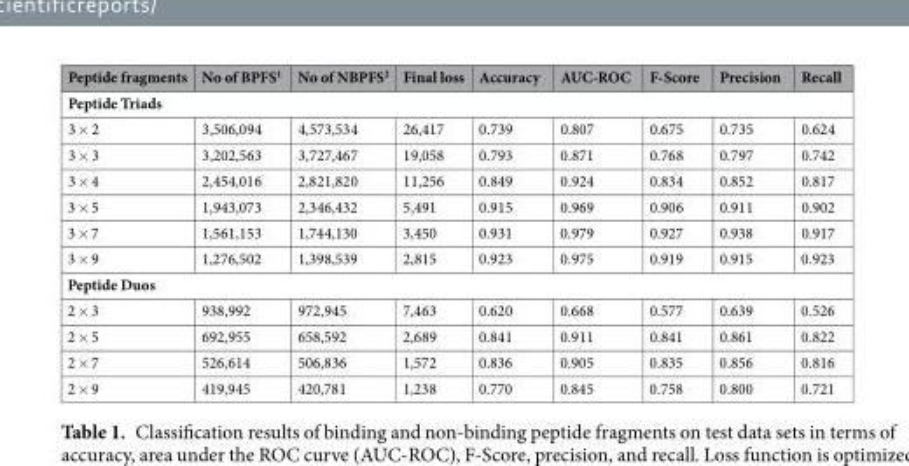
<table><thead><tr><td>Peptide fragments</td><td>No of BPFS<sup>1</sup></td><td>No of NBPFS<sup>2</sup></td><td>Final loss</td><td>Accuracy</td><td>AUC-ROC</td><td>F-Score</td><td>Precision</td><td>Recall</td></tr></thead><tbody><tr><td colspan="9">Peptide Triads</td></tr><tr><td>3 × 2</td><td>3,506,094</td><td>4,573,534</td><td>26,417</td><td>0.739</td><td>0.807</td><td>0.675</td><td>0.735</td><td>0.624</td></tr><tr><td>3 × 3</td><td>3,202,563</td><td>3,727,467</td><td>19,058</td><td>0.793</td><td>0.871</td><td>0.768</td><td>0.797</td><td>0.742</td></tr><tr><td>3 × 4</td><td>2,454,016</td><td>2,821,820</td><td>11,256</td><td>0.849</td><td>0.924</td><td>0.834</td><td>0.852</td><td>0.817</td></tr><tr><td>3 × 5</td><td>1,943,073</td><td>2,346,432</td><td>5,491</td><td>0.915</td><td>0.969</td><td>0.906</td><td>0.911</td><td>0.902</td></tr><tr><td>3 × 7</td><td>1,561,153</td><td>1,744,130</td><td>3,450</td><td>0.931</td><td>0.979</td><td>0.927</td><td>0.938</td><td>0.917</td></tr><tr><td>3 × 9</td><td>1,276,502</td><td>1,398,539</td><td>2,815</td><td>0.923</td><td>0.975</td><td>0.919</td><td>0.915</td><td>0.923</td></tr><tr><td colspan="9">Peptide Duos</td></tr><tr><td>2 × 3</td><td>938,992</td><td>972,945</td><td>7,463</td><td>0.620</td><td>0.668</td><td>0.577</td><td>0.639</td><td>0.526</td></tr><tr><td>2 × 5</td><td>692,955</td><td>658,592</td><td>2,689</td><td>0.841</td><td>0.911</td><td>0.841</td><td>0.861</td><td>0.822</td></tr><tr><td>2 × 7</td><td>526,614</td><td>506,836</td><td>1,572</td><td>0.836</td><td>0.905</td><td>0.835</td><td>0.856</td><td>0.816</td></tr><tr><td>2 × 9</td><td>419,945</td><td>420,781</td><td>1,238</td><td>0.770</td><td>0.845</td><td>0.758</td><td>0.800</td><td>0.721</td></tr></tbody></table>